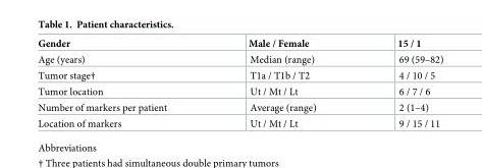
<table><thead><tr><td>Gender</td><td>Male / Female</td><td>15 / 1</td></tr></thead><tbody><tr><td>Age (years)</td><td>Median (range)</td><td>69 (59–82)</td></tr><tr><td>Tumor stage†</td><td>T1a / T1b / T2</td><td>4 / 10 / 5</td></tr><tr><td>Tumor location</td><td>Ut / Mt / Lt</td><td>6 / 7 / 6</td></tr><tr><td>Number of markers per patient</td><td>Average (range)</td><td>2 (1–4)</td></tr><tr><td>Location of markers</td><td>Ut / Mt / Lt</td><td>9 / 15 / 11</td></tr></tbody></table>